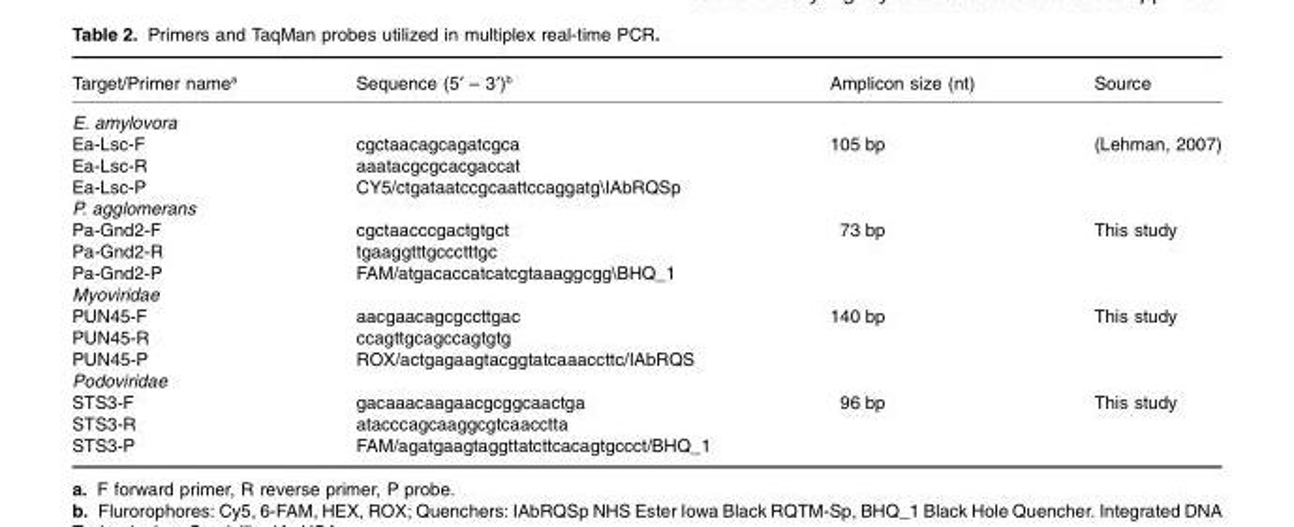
<table><thead><tr><td>Target/Primer name<sup>a</sup></td><td>Sequence (5′ – 3′)<sup>b</sup></td><td>Amplicon size (nt)</td><td>Source</td></tr></thead><tbody><tr><td colspan="4">E. amylovora</td></tr><tr><td>Ea-Lsc-F</td><td>cgctaacagcagatcgca</td><td>105 bp</td><td>(Lehman, 2007)</td></tr><tr><td>Ea-Lsc-R</td><td>aaatacgcgcacgaccat</td><td></td><td></td></tr><tr><td>Ea-Lsc-P</td><td>CY5/ctgataatccgcaattccaggatg\IAbRQSp</td><td></td><td></td></tr><tr><td colspan="4">P. agglomerans</td></tr><tr><td>Pa-Gnd2-F</td><td>cgctaacccgactgtgct</td><td>73 bp</td><td>This study</td></tr><tr><td>Pa-Gnd2-R</td><td>tgaaggtttgccctttgc</td><td></td><td></td></tr><tr><td>Pa-Gnd2-P</td><td>FAM/atgacaccatcatcgtaaaggcgg\BHQ_1</td><td></td><td></td></tr><tr><td colspan="4">Myoviridae</td></tr><tr><td>PUN45-F</td><td>aacgaacagcgccttgac</td><td>140 bp</td><td>This study</td></tr><tr><td>PUN45-R</td><td>ccagttgcagccagtgtg</td><td></td><td></td></tr><tr><td>PUN45-P</td><td>ROX/actgagaagtacggtatcaaaccttc/IAbRQS</td><td></td><td></td></tr><tr><td colspan="4">Podoviridae</td></tr><tr><td>STS3-F</td><td>gacaaacaagaacgcggcaactga</td><td>96 bp</td><td>This study</td></tr><tr><td>STS3-R</td><td>atacccagcaaggcgtcaacctta</td><td></td><td></td></tr><tr><td>STS3-P</td><td>FAM/agatgaagtaggttatcttcacagtgccct/BHQ_1</td><td></td><td></td></tr></tbody></table>